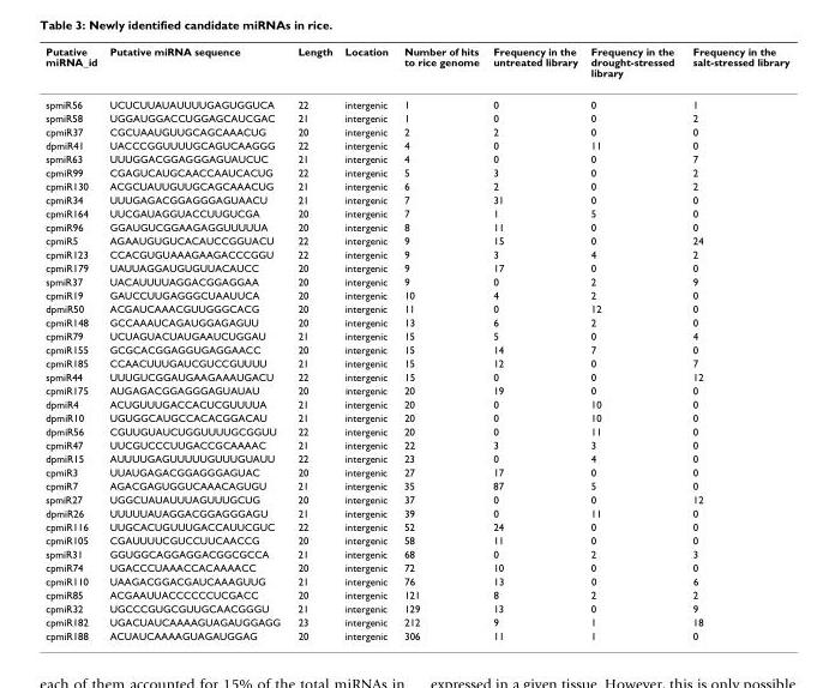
<table><thead><tr><td>Putative miRNA_id</td><td>Putative miRNA sequence</td><td>Length</td><td>Location</td><td>Number of hits to rice genome</td><td>Frequency in the untreated library</td><td>Frequency in the drought-stressed library</td><td>Frequency in the salt-stressed library</td></tr></thead><tbody><tr><td>spmiR56</td><td>UCUCUUAUAUUUUGAGUGGUCA</td><td>22</td><td>intergenic</td><td>1</td><td>0</td><td>0</td><td>1</td></tr><tr><td>spmiR58</td><td>UGGAUGGACCUGGAGCAUCGAC</td><td>21</td><td>intergenic</td><td>1</td><td>0</td><td>0</td><td>2</td></tr><tr><td>cpmiR37</td><td>CGCUAAUGUUGCAGCAAACUG</td><td>20</td><td>intergenic</td><td>2</td><td>2</td><td>0</td><td>0</td></tr><tr><td>dpmiR41</td><td>UACCCGGUUUUGCAGUCAAGGG</td><td>22</td><td>intergenic</td><td>4</td><td>0</td><td>11</td><td>0</td></tr><tr><td>spmiR63</td><td>UUUGGACGGAGGGAGUAUCUC</td><td>21</td><td>intergenic</td><td>4</td><td>0</td><td>0</td><td>7</td></tr><tr><td>cpmiR99</td><td>CGAGUCAUGCAACCAAUCACUG</td><td>22</td><td>intergenic</td><td>5</td><td>3</td><td>0</td><td>2</td></tr><tr><td>cpmiR130</td><td>ACGCUAUUGUUGCAGCAAACUG</td><td>21</td><td>intergenic</td><td>6</td><td>2</td><td>0</td><td>2</td></tr><tr><td>cpmiR34</td><td>UUUGAGACGGAGGGAGUAACU</td><td>21</td><td>intergenic</td><td>7</td><td>31</td><td>0</td><td>0</td></tr><tr><td>cpmiR164</td><td>UUCGAUAGGUACCUUGUCGA</td><td>20</td><td>intergenic</td><td>7</td><td>1</td><td>5</td><td>0</td></tr><tr><td>cpmiR96</td><td>GGAUGUCGGAAGAGGUUUUUA</td><td>20</td><td>intergenic</td><td>8</td><td>11</td><td>0</td><td>0</td></tr><tr><td>cpmiR5</td><td>AGAAUGUGUCACAUCCGGUACU</td><td>22</td><td>intergenic</td><td>9</td><td>15</td><td>0</td><td>24</td></tr><tr><td>cpmiR123</td><td>CCACGUGUAAAGAAGACCCGGU</td><td>22</td><td>intergenic</td><td>9</td><td>3</td><td>4</td><td>2</td></tr><tr><td>cpmiR179</td><td>UAUUAGGAUGUGUUACAUCC</td><td>20</td><td>intergenic</td><td>9</td><td>17</td><td>0</td><td>0</td></tr><tr><td>spmiR37</td><td>UACAUUUUAGGACGGAGGAA</td><td>20</td><td>intergenic</td><td>9</td><td>0</td><td>2</td><td>9</td></tr><tr><td>cpmiR19</td><td>GAUCCUUGAGGGCUAAUUCA</td><td>20</td><td>intergenic</td><td>10</td><td>4</td><td>2</td><td>0</td></tr><tr><td>dpmiR50</td><td>ACGAUCAAACGUUGGGCACG</td><td>20</td><td>intergenic</td><td>11</td><td>0</td><td>12</td><td>0</td></tr><tr><td>cpmiR148</td><td>GCCAAAUCAGAUGGAGAGUU</td><td>20</td><td>intergenic</td><td>13</td><td>6</td><td>2</td><td>0</td></tr><tr><td>cpmiR79</td><td>UCUAGUACUAUGAAUCUGGAU</td><td>21</td><td>intergenic</td><td>15</td><td>5</td><td>0</td><td>4</td></tr><tr><td>cpmiR155</td><td>GCGCACGGAGGUGAGGAACC</td><td>20</td><td>intergenic</td><td>15</td><td>14</td><td>7</td><td>0</td></tr><tr><td>cpmiR185</td><td>CCAACUUUGAUCGUCCGUUUU</td><td>21</td><td>intergenic</td><td>15</td><td>12</td><td>0</td><td>7</td></tr><tr><td>spmiR44</td><td>UUUGUCGGAUGAAGAAAUGACU</td><td>22</td><td>intergenic</td><td>15</td><td>0</td><td>0</td><td>12</td></tr><tr><td>cpmiR175</td><td>AUGAGACGGAGGGAGUAUAU</td><td>20</td><td>intergenic</td><td>20</td><td>19</td><td>0</td><td>0</td></tr><tr><td>dpmiR4</td><td>ACUGUUUGACCACUCGUUUUA</td><td>21</td><td>intergenic</td><td>20</td><td>0</td><td>10</td><td>0</td></tr><tr><td>dpmiR10</td><td>UGUGGCAUGCCACACGGACAU</td><td>21</td><td>intergenic</td><td>20</td><td>0</td><td>10</td><td>0</td></tr><tr><td>dpmiR56</td><td>CGUUGUAUCUGGUUUUGCGGUU</td><td>22</td><td>intergenic</td><td>20</td><td>0</td><td>11</td><td>0</td></tr><tr><td>cpmiR47</td><td>UUCGUCCCUUGACCGCAAAAC</td><td>21</td><td>intergenic</td><td>22</td><td>3</td><td>3</td><td>0</td></tr><tr><td>dpmiR15</td><td>AUUUUGAGUUUUUGUUUGUAUU</td><td>22</td><td>intergenic</td><td>23</td><td>0</td><td>4</td><td>0</td></tr><tr><td>cpmiR3</td><td>UUAUGAGACGGAGGGAGUAC</td><td>20</td><td>intergenic</td><td>27</td><td>17</td><td>0</td><td>0</td></tr><tr><td>cpmiR7</td><td>AGACGAGUGGUCAAACAGUGU</td><td>21</td><td>intergenic</td><td>35</td><td>87</td><td>5</td><td>0</td></tr><tr><td>spmiR27</td><td>UGGCUAUAUUUAGUUUGCUG</td><td>20</td><td>intergenic</td><td>37</td><td>0</td><td>0</td><td>12</td></tr><tr><td>dpmiR26</td><td>UUUUUAUAGGACGGAGGGAGU</td><td>21</td><td>intergenic</td><td>39</td><td>0</td><td>11</td><td>0</td></tr><tr><td>cpmiR116</td><td>UUGCACUGUUUGACCAUUCGUC</td><td>22</td><td>intergenic</td><td>52</td><td>24</td><td>0</td><td>0</td></tr><tr><td>cpmiR105</td><td>CGAUUUUCGUCCUUCAACCG</td><td>20</td><td>intergenic</td><td>58</td><td>11</td><td>0</td><td>0</td></tr><tr><td>spmiR31</td><td>GGUGGCAGGAGGACGGCGCCA</td><td>21</td><td>intergenic</td><td>68</td><td>0</td><td>2</td><td>3</td></tr><tr><td>cpmiR74</td><td>UGACCCUAAACCACAAAACC</td><td>20</td><td>intergenic</td><td>72</td><td>10</td><td>0</td><td>0</td></tr><tr><td>cpmiR110</td><td>UAAGACGGACGAUCAAAGUUG</td><td>21</td><td>intergenic</td><td>76</td><td>13</td><td>0</td><td>6</td></tr><tr><td>cpmiR85</td><td>ACGAAUUACCCCCCUCGACC</td><td>20</td><td>intergenic</td><td>121</td><td>8</td><td>2</td><td>2</td></tr><tr><td>cpmiR32</td><td>UGCCCGUGCGUUGCAACGGGU</td><td>21</td><td>intergenic</td><td>129</td><td>13</td><td>0</td><td>9</td></tr><tr><td>cpmiR182</td><td>UGACUAUCAAAAGUAGAUGGAGG</td><td>23</td><td>intergenic</td><td>212</td><td>9</td><td>1</td><td>18</td></tr><tr><td>cpmiR188</td><td>ACUAUCAAAAGUAGAUGGAG</td><td>20</td><td>intergenic</td><td>306</td><td>11</td><td>1</td><td>0</td></tr></tbody></table>